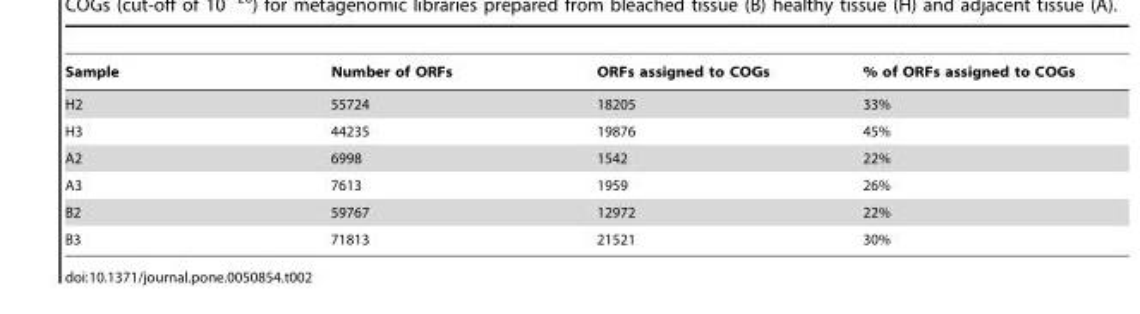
<table><thead><tr><td>Sample</td><td>Number of ORFs</td><td>ORFs assigned to COGs</td><td>% of ORFs assigned to COGs</td></tr></thead><tbody><tr><td>H2</td><td>55724</td><td>18205</td><td>33%</td></tr><tr><td>H3</td><td>44235</td><td>19876</td><td>45%</td></tr><tr><td>A2</td><td>6998</td><td>1542</td><td>22%</td></tr><tr><td>A3</td><td>7613</td><td>1959</td><td>26%</td></tr><tr><td>B2</td><td>59767</td><td>12972</td><td>22%</td></tr><tr><td>B3</td><td>71813</td><td>21521</td><td>30%</td></tr></tbody></table>